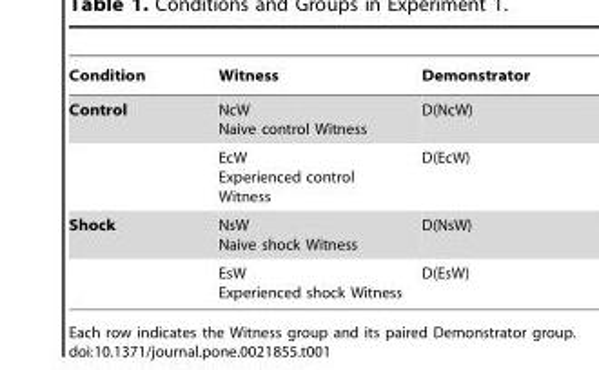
<table><thead><tr><td>Condition</td><td>Witness</td><td>Demonstrator</td></tr></thead><tbody><tr><td rowspan="2">Control</td><td>NcW Naive control Witness</td><td>D(NcW)</td></tr><tr><td>EcW Experienced control Witness</td><td>D(EcW)</td></tr><tr><td rowspan="2">Shock</td><td>NsW Naive shock Witness</td><td>D(NsW)</td></tr><tr><td>EsW Experienced shock Witness</td><td>D(EsW)</td></tr></tbody></table>